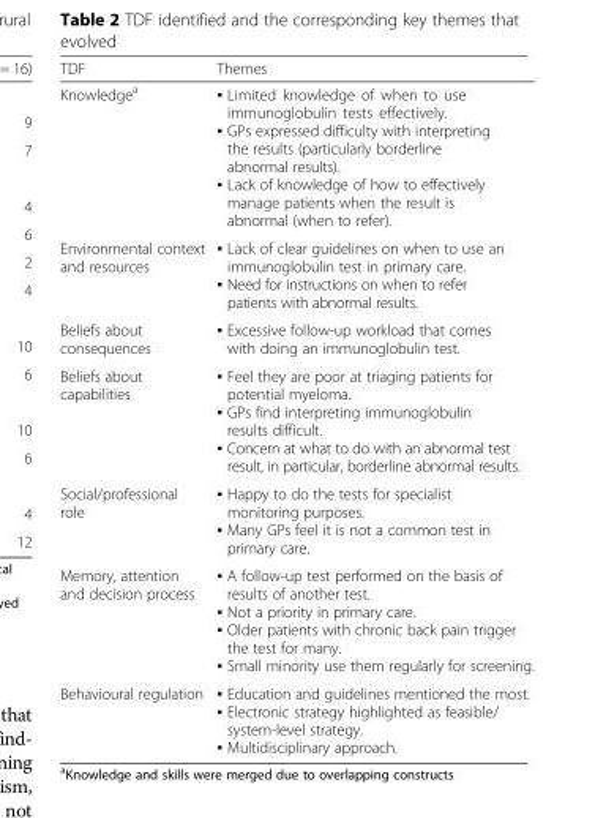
<table><thead><tr><td>TDF</td><td>Themes</td></tr></thead><tbody><tr><td>Knowledge<sup>a</sup></td><td>▪ Limited knowledge of when to use immunoglobulin tests effectively. ▪ GPs expressed difficulty with interpreting the results (particularly borderline abnormal results). ▪ Lack of knowledge of how to effectively manage patients when the result is abnormal (when to refer).</td></tr><tr><td>Environmental context and resources</td><td>▪ Lack of clear guidelines on when to use an immunoglobulin test in primary care. ▪ Need for instructions on when to refer patients with abnormal results.</td></tr><tr><td>Beliefs about consequences</td><td>▪ Excessive follow-up workload that comes with doing an immunoglobulin test.</td></tr><tr><td>Beliefs about capabilities</td><td>▪ Feel they are poor at triaging patients for potential myeloma. ▪ GPs find interpreting immunoglobulin results difficult. ▪ Concern at what to do with an abnormal test result, in particular, borderline abnormal results.</td></tr><tr><td>Social/professional role</td><td>▪ Happy to do the tests for specialist monitoring purposes. ▪ Many GPs feel it is not a common test in primary care.</td></tr><tr><td>Memory, attention and decision process</td><td>▪ A follow-up test performed on the basis of results of another test. ▪ Not a priority in primary care. ▪ Older patients with chronic back pain trigger the test for many. ▪ Small minority use them regularly for screening.</td></tr><tr><td>Behavioural regulation</td><td>▪ Education and guidelines mentioned the most. ▪ Electronic strategy highlighted as feasible/ system-level strategy. ▪ Multidisciplinary approach.</td></tr></tbody></table>